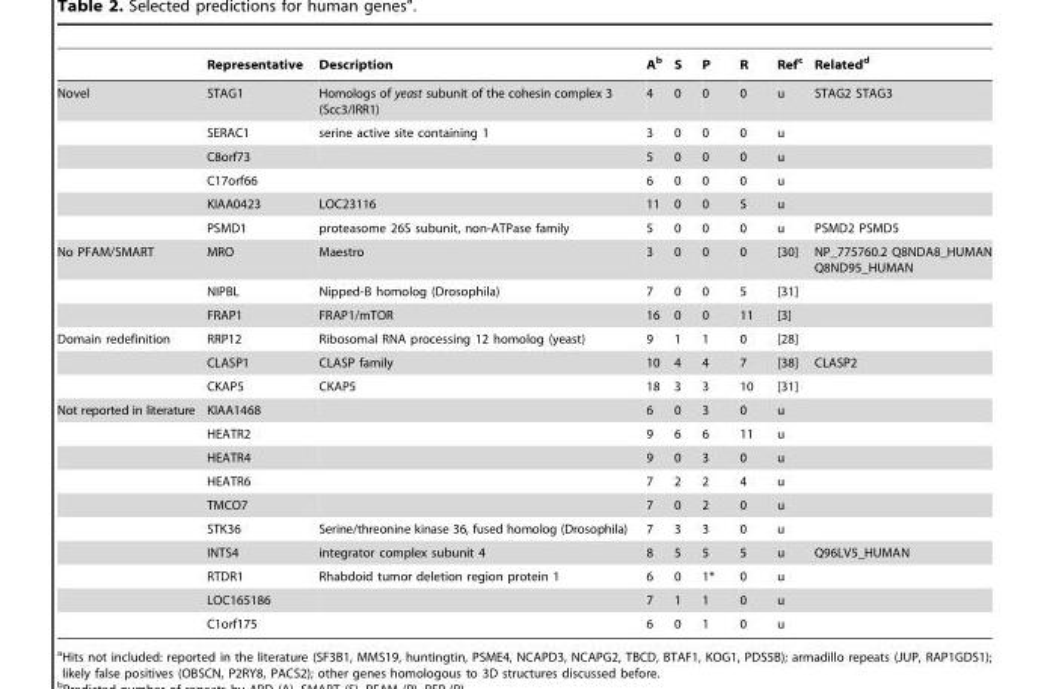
<table><thead><tr><td></td><td>Representative</td><td>Description</td><td>A<sup>b</sup></td><td>S</td><td>P</td><td>R</td><td>Ref<sup>c</sup></td><td>Related<sup>d</sup></td></tr></thead><tbody><tr><td rowspan="6">Novel</td><td>STAG1</td><td>Homologs of yeast subunit of the cohesin complex 3 (Scc3/IRR1)</td><td>4</td><td>0</td><td>0</td><td>0</td><td>u</td><td>STAG2 STAG3</td></tr><tr><td>SERAC1</td><td>serine active site containing 1</td><td>3</td><td>0</td><td>0</td><td>0</td><td>u</td><td></td></tr><tr><td>C8orf73</td><td></td><td>5</td><td>0</td><td>0</td><td>0</td><td>u</td><td></td></tr><tr><td>C17orf66</td><td></td><td>6</td><td>0</td><td>0</td><td>0</td><td>u</td><td></td></tr><tr><td>KIAA0423</td><td>LOC23116</td><td>11</td><td>0</td><td>0</td><td>5</td><td>u</td><td></td></tr><tr><td>PSMD1</td><td>proteasome 26S subunit, non-ATPase family</td><td>5</td><td>0</td><td>0</td><td>0</td><td>u</td><td>PSMD2 PSMD5</td></tr><tr><td rowspan="3">No PFAM/SMART</td><td>MRO</td><td>Maestro</td><td>3</td><td>0</td><td>0</td><td>0</td><td>[30]</td><td>NP_775760.2 Q8NDA8_HUMAN Q8ND95_HUMAN</td></tr><tr><td>NIPBL</td><td>Nipped-B homolog (Drosophila)</td><td>7</td><td>0</td><td>0</td><td>5</td><td>[31]</td><td></td></tr><tr><td>FRAP1</td><td>FRAP1/mTOR</td><td>16</td><td>0</td><td>0</td><td>11</td><td>[3]</td><td></td></tr><tr><td rowspan="3">Domain redefinition</td><td>RRP12</td><td>Ribosomal RNA processing 12 homolog (yeast)</td><td>9</td><td>1</td><td>1</td><td>0</td><td>[28]</td><td></td></tr><tr><td>CLASP1</td><td>CLASP family</td><td>10</td><td>4</td><td>4</td><td>7</td><td>[38]</td><td>CLASP2</td></tr><tr><td>CKAP5</td><td>CKAP5</td><td>18</td><td>3</td><td>3</td><td>10</td><td>[31]</td><td></td></tr><tr><td rowspan="10">Not reported in literature</td><td>KIAA1468</td><td></td><td>6</td><td>0</td><td>3</td><td>0</td><td>u</td><td></td></tr><tr><td>HEATR2</td><td></td><td>9</td><td>6</td><td>6</td><td>11</td><td>u</td><td></td></tr><tr><td>HEATR4</td><td></td><td>9</td><td>0</td><td>3</td><td>0</td><td>u</td><td></td></tr><tr><td>HEATR6</td><td></td><td>7</td><td>2</td><td>2</td><td>4</td><td>u</td><td></td></tr><tr><td>TMCO7</td><td></td><td>7</td><td>0</td><td>2</td><td>0</td><td>u</td><td></td></tr><tr><td>STK36</td><td>Serine/threonine kinase 36, fused homolog (Drosophila)</td><td>7</td><td>3</td><td>3</td><td>0</td><td>u</td><td></td></tr><tr><td>INTS4</td><td>integrator complex subunit 4</td><td>8</td><td>5</td><td>5</td><td>5</td><td>u</td><td>Q96LV5_HUMAN</td></tr><tr><td>RTDR1</td><td>Rhabdoid tumor deletion region protein 1</td><td>6</td><td>0</td><td>1*</td><td>0</td><td>u</td><td></td></tr><tr><td>LOC165186</td><td></td><td>7</td><td>1</td><td>1</td><td>0</td><td>u</td><td></td></tr><tr><td>C1orf175</td><td></td><td>6</td><td>0</td><td>1</td><td>0</td><td>u</td><td></td></tr></tbody></table>